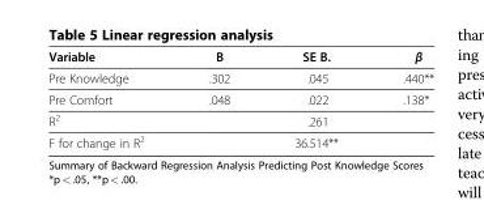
<table><thead><tr><td>Variable</td><td>B</td><td>SE B.</td><td>β</td></tr></thead><tbody><tr><td>Pre Knowledge</td><td>.302</td><td>.045</td><td>.440**</td></tr><tr><td>Pre Comfort</td><td>.048</td><td>.022</td><td>.138*</td></tr><tr><td>R<sup>2</sup></td><td></td><td>.261</td><td></td></tr><tr><td>F for change in R<sup>2</sup></td><td></td><td>36.514**</td><td></td></tr></tbody></table>